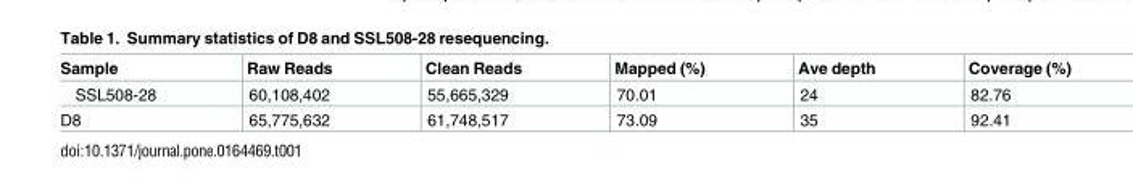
<table><thead><tr><td>Sample</td><td>Raw Reads</td><td>Clean Reads</td><td>Mapped (%)</td><td>Ave depth</td><td>Coverage (%)</td></tr></thead><tbody><tr><td>SSL508-28</td><td>60,108,402</td><td>55,665,329</td><td>70.01</td><td>24</td><td>82.76</td></tr><tr><td>D8</td><td>65,775,632</td><td>61,748,517</td><td>73.09</td><td>35</td><td>92.41</td></tr></tbody></table>